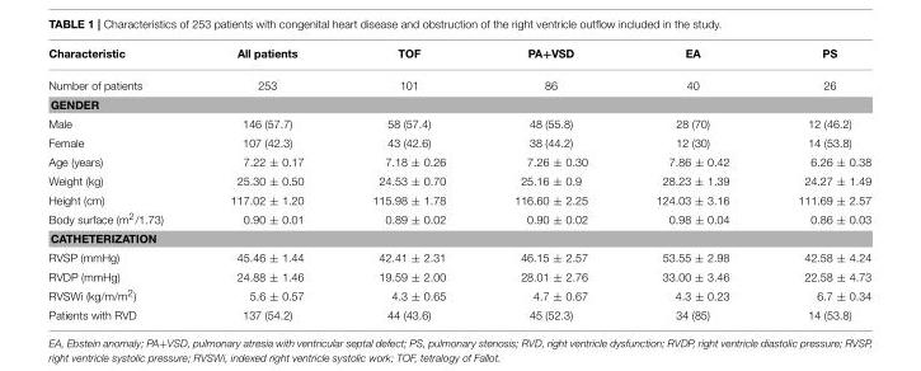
<table><thead><tr><td>Characteristic</td><td>All patients</td><td>TOF</td><td>PA+VSD</td><td>EA</td><td>PS</td></tr></thead><tbody><tr><td>Number of patients</td><td>253</td><td>101</td><td>86</td><td>40</td><td>26</td></tr><tr><td colspan="6">GENDER</td></tr><tr><td>Male</td><td>146 (57.7)</td><td>58 (57.4)</td><td>48 (55.8)</td><td>28 (70)</td><td>12 (46.2)</td></tr><tr><td>Female</td><td>107 (42.3)</td><td>43 (42.6)</td><td>38 (44.2)</td><td>12 (30)</td><td>14 (53.8)</td></tr><tr><td>Age (years)</td><td>7.22 ± 0.17</td><td>7.18 ± 0.26</td><td>7.26 ± 0.30</td><td>7.86 ± 0.42</td><td>6.26 ± 0.38</td></tr><tr><td>Weight (kg)</td><td>25.30 ± 0.50</td><td>24.53 ± 0.70</td><td>25.16 ± 0.9</td><td>28.23 ± 1.39</td><td>24.27 ± 1.49</td></tr><tr><td>Height (cm)</td><td>117.02 ± 1.20</td><td>115.98 ± 1.78</td><td>116.60 ± 2.25</td><td>124.03 ± 3.16</td><td>111.69 ± 2.57</td></tr><tr><td>Body surface (m<sup>2</sup>/1.73)</td><td>0.90 ± 0.01</td><td>0.89 ± 0.02</td><td>0.90 ± 0.02</td><td>0.98 ± 0.04</td><td>0.86 ± 0.03</td></tr><tr><td colspan="6">CATHETERIZATION</td></tr><tr><td>RVSP (mmHg)</td><td>45.46 ± 1.44</td><td>42.41 ± 2.31</td><td>46.15 ± 2.57</td><td>53.55 ± 2.98</td><td>42.58 ± 4.24</td></tr><tr><td>RVDP (mmHg)</td><td>24.88 ± 1.46</td><td>19.59 ± 2.00</td><td>28.01 ± 2.76</td><td>33.00 ± 3.46</td><td>22.58 ± 4.73</td></tr><tr><td>RVSWi (kg/m/m<sup>2</sup>)</td><td>5.6 ± 0.57</td><td>4.3 ± 0.65</td><td>4.7 ± 0.67</td><td>4.3 ± 0.23</td><td>6.7 ± 0.34</td></tr><tr><td>Patients with RVD</td><td>137 (54.2)</td><td>44 (43.6)</td><td>45 (52.3)</td><td>34 (85)</td><td>14 (53.8)</td></tr></tbody></table>